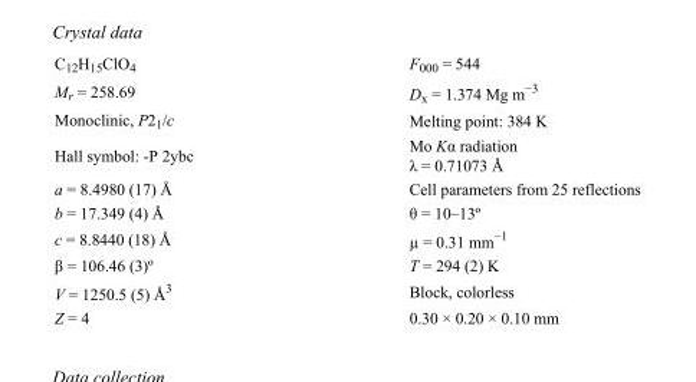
<table><tbody><tr><td>C<sub>12</sub>H<sub>15</sub>ClO<sub>4</sub></td><td>F000 = 544</td></tr><tr><td>M<sub>r</sub> = 258.69</td><td>D<sub>x</sub> = 1.374 Mg m<sup>−3</sup></td></tr><tr><td>Monoclinic, P2<sub>1</sub>/c</td><td>Melting point: 384 K</td></tr><tr><td>Hall symbol: -P 2ybc</td><td>Mo Kα radiation λ = 0.71073 Å</td></tr><tr><td>a = 8.4980 (17) Å</td><td>Cell parameters from 25 reflections</td></tr><tr><td>b = 17.349 (4) Å</td><td>θ = 10–13º</td></tr><tr><td>c = 8.8440 (18) Å</td><td>µ = 0.31 mm<sup>−1</sup></td></tr><tr><td>β = 106.46 (3)º</td><td>T = 294 (2) K</td></tr><tr><td>V = 1250.5 (5) Å<sup>3</sup></td><td>Block, colorless</td></tr><tr><td>Z = 4</td><td>0.30 × 0.20 × 0.10 mm</td></tr></tbody></table>